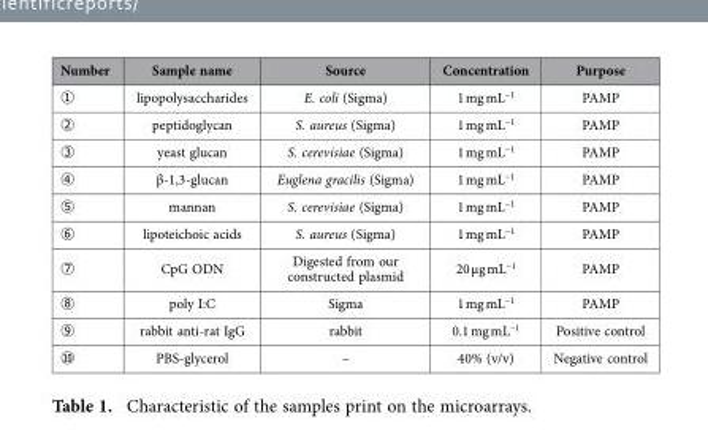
<table><thead><tr><td>Number</td><td>Sample name</td><td>Source</td><td>Concentration</td><td>Purpose</td></tr></thead><tbody><tr><td>①</td><td>lipopolysaccharides</td><td>E. coli (Sigma)</td><td>1 mg mL<sup>−1</sup></td><td>PAMP</td></tr><tr><td>②</td><td>peptidoglycan</td><td>S. aureus (Sigma)</td><td>1 mg mL<sup>−1</sup></td><td>PAMP</td></tr><tr><td>③</td><td>yeast glucan</td><td>S. cerevisiae (Sigma)</td><td>1 mg mL<sup>−1</sup></td><td>PAMP</td></tr><tr><td>④</td><td>β-1,3-glucan</td><td>Euglena gracilis (Sigma)</td><td>1 mg mL<sup>−1</sup></td><td>PAMP</td></tr><tr><td>⑤</td><td>mannan</td><td>S. cerevisiae (Sigma)</td><td>1 mg mL<sup>−1</sup></td><td>PAMP</td></tr><tr><td>⑥</td><td>lipoteichoic acids</td><td>S. aureus (Sigma)</td><td>1 mg mL<sup>−1</sup></td><td>PAMP</td></tr><tr><td>⑦</td><td>CpG ODN</td><td>Digested from our constructed plasmid</td><td>20 μg mL<sup>−1</sup></td><td>PAMP</td></tr><tr><td>⑧</td><td>poly I:C</td><td>Sigma</td><td>1 mg mL<sup>−1</sup></td><td>PAMP</td></tr><tr><td>⑨</td><td>rabbit anti-rat IgG</td><td>rabbit</td><td>0.1 mg mL<sup>−1</sup></td><td>Positive control</td></tr><tr><td>⑩</td><td>PBS-glycerol</td><td>–</td><td>40% (v/v)</td><td>Negative control</td></tr></tbody></table>